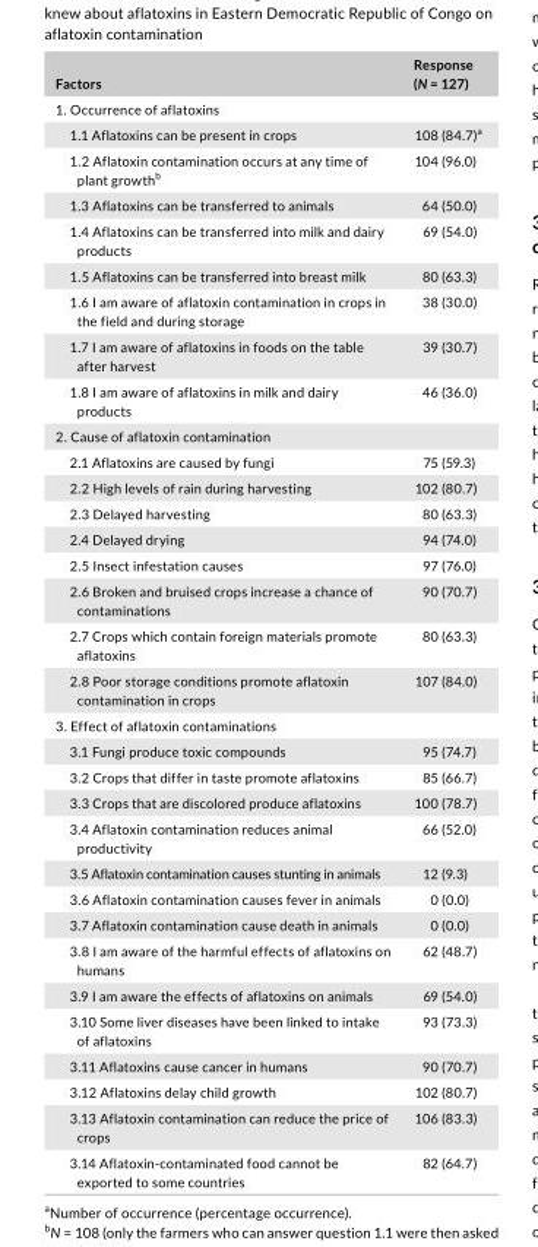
<table><thead><tr><td>Factors</td><td>Response (N = 127)</td></tr></thead><tbody><tr><td colspan="2">1. Occurrence of aflatoxins</td></tr><tr><td>1.1 Aflatoxins can be present in crops</td><td>108 (84.7)<sup>a</sup></td></tr><tr><td>1.2 Aflatoxin contamination occurs at any time of plant growth<sup>b</sup></td><td>104 (96.0)</td></tr><tr><td>1.3 Aflatoxins can be transferred to animals</td><td>64 (50.0)</td></tr><tr><td>1.4 Aflatoxins can be transferred into milk and dairy products</td><td>69 (54.0)</td></tr><tr><td>1.5 Aflatoxins can be transferred into breast milk</td><td>80 (63.3)</td></tr><tr><td>1.6 I am aware of aflatoxin contamination in crops in the field and during storage</td><td>38 (30.0)</td></tr><tr><td>1.7 I am aware of aflatoxins in foods on the table after harvest</td><td>39 (30.7)</td></tr><tr><td>1.8 I am aware of aflatoxins in milk and dairy products</td><td>46 (36.0)</td></tr><tr><td colspan="2">2. Cause of aflatoxin contamination</td></tr><tr><td>2.1 Aflatoxins are caused by fungi</td><td>75 (59.3)</td></tr><tr><td>2.2 High levels of rain during harvesting</td><td>102 (80.7)</td></tr><tr><td>2.3 Delayed harvesting</td><td>80 (63.3)</td></tr><tr><td>2.4 Delayed drying</td><td>94 (74.0)</td></tr><tr><td>2.5 Insect infestation causes</td><td>97 (76.0)</td></tr><tr><td>2.6 Broken and bruised crops increase a chance of contaminations</td><td>90 (70.7)</td></tr><tr><td>2.7 Crops which contain foreign materials promote aflatoxins</td><td>80 (63.3)</td></tr><tr><td>2.8 Poor storage conditions promote aflatoxin contamination in crops</td><td>107 (84.0)</td></tr><tr><td colspan="2">3. Effect of aflatoxin contaminations</td></tr><tr><td>3.1 Fungi produce toxic compounds</td><td>95 (74.7)</td></tr><tr><td>3.2 Crops that differ in taste promote aflatoxins</td><td>85 (66.7)</td></tr><tr><td>3.3 Crops that are discolored produce aflatoxins</td><td>100 (78.7)</td></tr><tr><td>3.4 Aflatoxin contamination reduces animal productivity</td><td>66 (52.0)</td></tr><tr><td>3.5 Aflatoxin contamination causes stunting in animals</td><td>12 (9.3)</td></tr><tr><td>3.6 Aflatoxin contamination causes fever in animals</td><td>0 (0.0)</td></tr><tr><td>3.7 Aflatoxin contamination cause death in animals</td><td>0 (0.0)</td></tr><tr><td>3.8 I am aware of the harmful effects of aflatoxins on humans</td><td>62 (48.7)</td></tr><tr><td>3.9 I am aware the effects of aflatoxins on animals</td><td>69 (54.0)</td></tr><tr><td>3.10 Some liver diseases have been linked to intake of aflatoxins</td><td>93 (73.3)</td></tr><tr><td>3.11 Aflatoxins cause cancer in humans</td><td>90 (70.7)</td></tr><tr><td>3.12 Aflatoxins delay child growth</td><td>102 (80.7)</td></tr><tr><td>3.13 Aflatoxin contamination can reduce the price of crops</td><td>106 (83.3)</td></tr><tr><td>3.14 Aflatoxin- contaminated food cannot be exported to some countries</td><td>82 (64.7)</td></tr></tbody></table>